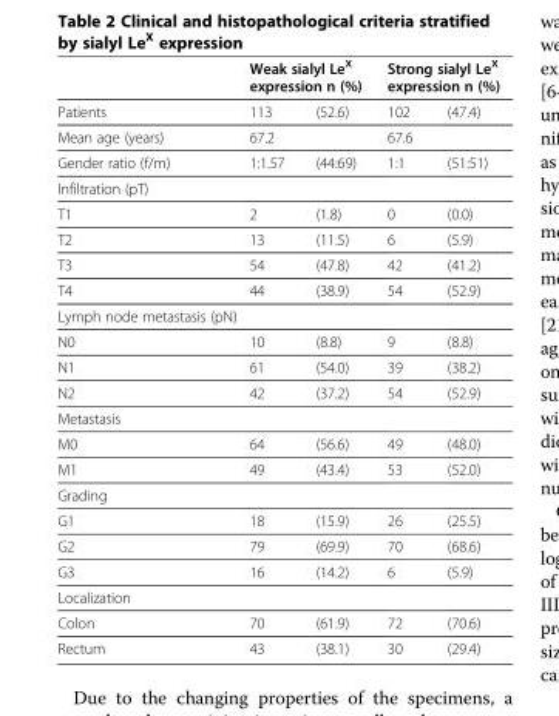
<table><thead><tr><td rowspan="2">Patients</td><td colspan="2">Weak sialyl Le<sup>X</sup> expression n (%)</td><td colspan="2">Strong sialyl Le<sup>X</sup> expression n (%)</td></tr><tr><td>113</td><td>(52.6)</td><td>102</td><td>(47.4)</td></tr></thead><tbody><tr><td>Mean age (years)</td><td colspan="2">67.2</td><td colspan="2">67.6</td></tr><tr><td>Gender ratio (f/m)</td><td>1:1.57</td><td>(44:69)</td><td>1:1</td><td>(51:51)</td></tr><tr><td colspan="5">Infiltration (pT)</td></tr><tr><td>T1</td><td>2</td><td>(1.8)</td><td>0</td><td>(0.0)</td></tr><tr><td>T2</td><td>13</td><td>(11.5)</td><td>6</td><td>(5.9)</td></tr><tr><td>T3</td><td>54</td><td>(47.8)</td><td>42</td><td>(41.2)</td></tr><tr><td>T4</td><td>44</td><td>(38.9)</td><td>54</td><td>(52.9)</td></tr><tr><td colspan="5">Lymph node metastasis (pN)</td></tr><tr><td>N0</td><td>10</td><td>(8.8)</td><td>9</td><td>(8.8)</td></tr><tr><td>N1</td><td>61</td><td>(54.0)</td><td>39</td><td>(38.2)</td></tr><tr><td>N2</td><td>42</td><td>(37.2)</td><td>54</td><td>(52.9)</td></tr><tr><td colspan="5">Metastasis</td></tr><tr><td>M0</td><td>64</td><td>(56.6)</td><td>49</td><td>(48.0)</td></tr><tr><td>M1</td><td>49</td><td>(43.4)</td><td>53</td><td>(52.0)</td></tr><tr><td colspan="5">Grading</td></tr><tr><td>G1</td><td>18</td><td>(15.9)</td><td>26</td><td>(25.5)</td></tr><tr><td>G2</td><td>79</td><td>(69.9)</td><td>70</td><td>(68.6)</td></tr><tr><td>G3</td><td>16</td><td>(14.2)</td><td>6</td><td>(5.9)</td></tr><tr><td colspan="5">Localization</td></tr><tr><td>Colon</td><td>70</td><td>(61.9)</td><td>72</td><td>(70.6)</td></tr><tr><td>Rectum</td><td>43</td><td>(38.1)</td><td>30</td><td>(29.4)</td></tr></tbody></table>